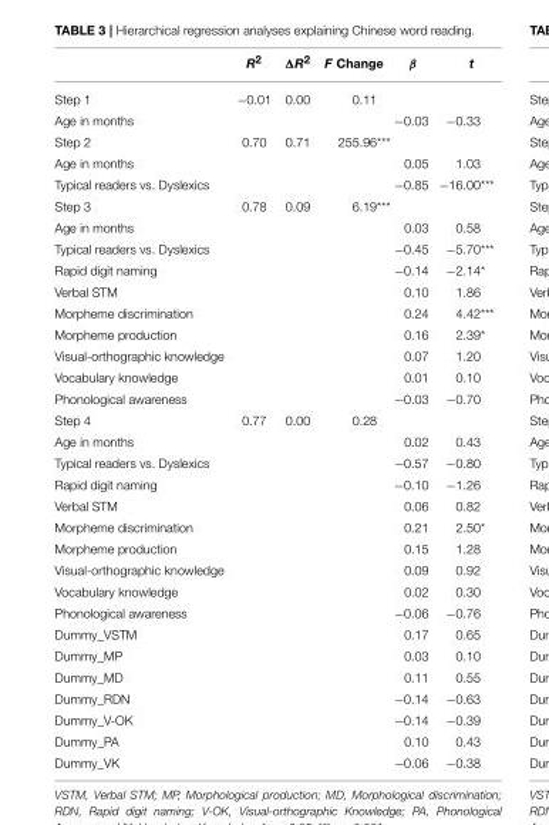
<table><thead><tr><td></td><td>R<sup>2</sup></td><td>ΔR<sup>2</sup></td><td>F Change</td><td>β</td><td>t</td></tr></thead><tbody><tr><td>Step 1</td><td>−0.01</td><td>0.00</td><td>0.11</td><td></td><td></td></tr><tr><td>Age in months</td><td></td><td></td><td></td><td>−0.03</td><td>−0.33</td></tr><tr><td>Step 2</td><td>0.70</td><td>0.71</td><td>255.96***</td><td></td><td></td></tr><tr><td>Age in months</td><td></td><td></td><td></td><td>0.05</td><td>1.03</td></tr><tr><td>Typical readers vs. Dyslexics</td><td></td><td></td><td></td><td>−0.85</td><td>−16.00***</td></tr><tr><td>Step 3</td><td>0.78</td><td>0.09</td><td>6.19***</td><td></td><td></td></tr><tr><td>Age in months</td><td></td><td></td><td></td><td>0.03</td><td>0.58</td></tr><tr><td>Typical readers vs. Dyslexics</td><td></td><td></td><td></td><td>−0.45</td><td>−5.70***</td></tr><tr><td>Rapid digit naming</td><td></td><td></td><td></td><td>−0.14</td><td>−2.14*</td></tr><tr><td>Verbal STM</td><td></td><td></td><td></td><td>0.10</td><td>1.86</td></tr><tr><td>Morpheme discrimination</td><td></td><td></td><td></td><td>0.24</td><td>4.42***</td></tr><tr><td>Morpheme production</td><td></td><td></td><td></td><td>0.16</td><td>2.39*</td></tr><tr><td>Visual-orthographic knowledge</td><td></td><td></td><td></td><td>0.07</td><td>1.20</td></tr><tr><td>Vocabulary knowledge</td><td></td><td></td><td></td><td>0.01</td><td>0.10</td></tr><tr><td>Phonological awareness</td><td></td><td></td><td></td><td>−0.03</td><td>−0.70</td></tr><tr><td>Step 4</td><td>0.77</td><td>0.00</td><td>0.28</td><td></td><td></td></tr><tr><td>Age in months</td><td></td><td></td><td></td><td>0.02</td><td>0.43</td></tr><tr><td>Typical readers vs. Dyslexics</td><td></td><td></td><td></td><td>−0.57</td><td>−0.80</td></tr><tr><td>Rapid digit naming</td><td></td><td></td><td></td><td>−0.10</td><td>−1.26</td></tr><tr><td>Verbal STM</td><td></td><td></td><td></td><td>0.06</td><td>0.82</td></tr><tr><td>Morpheme discrimination</td><td></td><td></td><td></td><td>0.21</td><td>2.50*</td></tr><tr><td>Morpheme production</td><td></td><td></td><td></td><td>0.15</td><td>1.28</td></tr><tr><td>Visual-orthographic knowledge</td><td></td><td></td><td></td><td>0.09</td><td>0.92</td></tr><tr><td>Vocabulary knowledge</td><td></td><td></td><td></td><td>0.02</td><td>0.30</td></tr><tr><td>Phonological awareness</td><td></td><td></td><td></td><td>−0.06</td><td>−0.76</td></tr><tr><td>Dummy_VSTM</td><td></td><td></td><td></td><td>0.17</td><td>0.65</td></tr><tr><td>Dummy_MP</td><td></td><td></td><td></td><td>0.03</td><td>0.10</td></tr><tr><td>Dummy_MD</td><td></td><td></td><td></td><td>0.11</td><td>0.55</td></tr><tr><td>Dummy_RDN</td><td></td><td></td><td></td><td>−0.14</td><td>−0.63</td></tr><tr><td>Dummy_V-OK</td><td></td><td></td><td></td><td>−0.14</td><td>−0.39</td></tr><tr><td>Dummy_PA</td><td></td><td></td><td></td><td>0.10</td><td>0.43</td></tr><tr><td>Dummy_VK</td><td></td><td></td><td></td><td>−0.06</td><td>−0.38</td></tr></tbody></table>